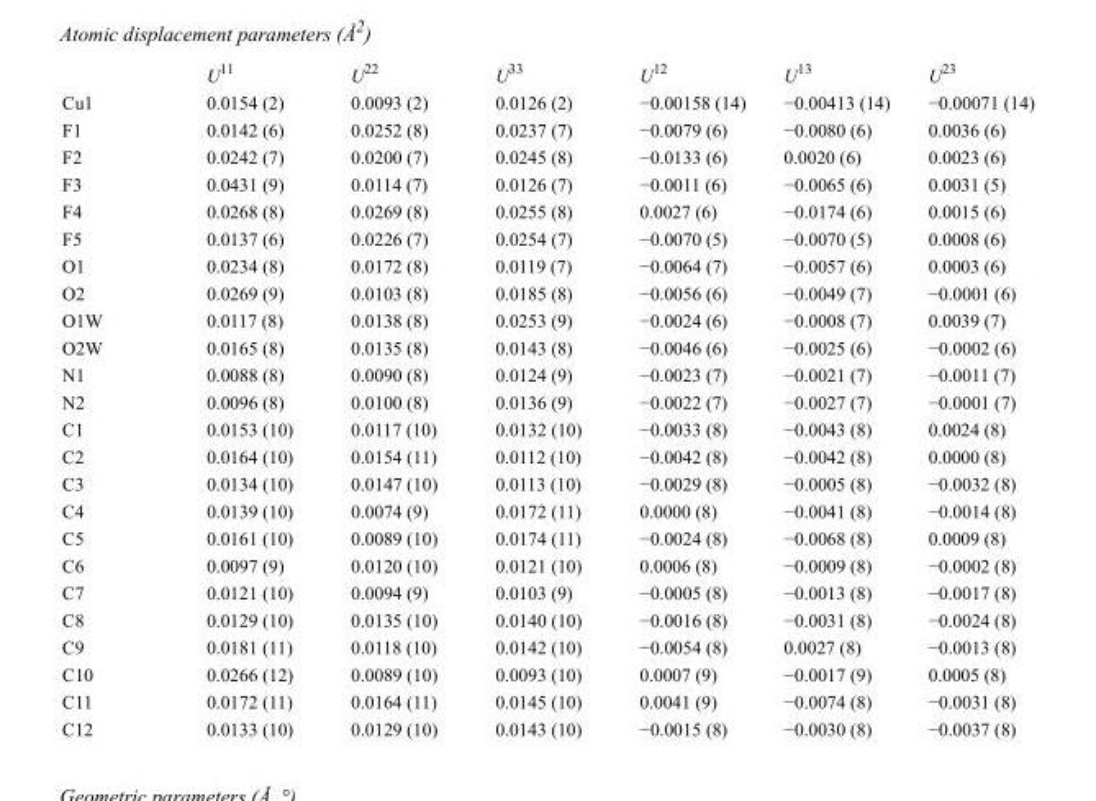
<table><thead><tr><td></td><td>U<sup>11</sup></td><td>U<sup>22</sup></td><td>U<sup>33</sup></td><td>U<sup>12</sup></td><td>U<sup>13</sup></td><td>U<sup>23</sup></td></tr></thead><tbody><tr><td>Cu1</td><td>0.0154 (2)</td><td>0.0093 (2)</td><td>0.0126 (2)</td><td>−0.00158 (14)</td><td>−0.00413 (14)</td><td>−0.00071 (14)</td></tr><tr><td>F1</td><td>0.0142 (6)</td><td>0.0252 (8)</td><td>0.0237 (7)</td><td>−0.0079 (6)</td><td>−0.0080 (6)</td><td>0.0036 (6)</td></tr><tr><td>F2</td><td>0.0242 (7)</td><td>0.0200 (7)</td><td>0.0245 (8)</td><td>−0.0133 (6)</td><td>0.0020 (6)</td><td>0.0023 (6)</td></tr><tr><td>F3</td><td>0.0431 (9)</td><td>0.0114 (7)</td><td>0.0126 (7)</td><td>−0.0011 (6)</td><td>−0.0065 (6)</td><td>0.0031 (5)</td></tr><tr><td>F4</td><td>0.0268 (8)</td><td>0.0269 (8)</td><td>0.0255 (8)</td><td>0.0027 (6)</td><td>−0.0174 (6)</td><td>0.0015 (6)</td></tr><tr><td>F5</td><td>0.0137 (6)</td><td>0.0226 (7)</td><td>0.0254 (7)</td><td>−0.0070 (5)</td><td>−0.0070 (5)</td><td>0.0008 (6)</td></tr><tr><td>O1</td><td>0.0234 (8)</td><td>0.0172 (8)</td><td>0.0119 (7)</td><td>−0.0064 (7)</td><td>−0.0057 (6)</td><td>0.0003 (6)</td></tr><tr><td>O2</td><td>0.0269 (9)</td><td>0.0103 (8)</td><td>0.0185 (8)</td><td>−0.0056 (6)</td><td>−0.0049 (7)</td><td>−0.0001 (6)</td></tr><tr><td>O1W</td><td>0.0117 (8)</td><td>0.0138 (8)</td><td>0.0253 (9)</td><td>−0.0024 (6)</td><td>−0.0008 (7)</td><td>0.0039 (7)</td></tr><tr><td>O2W</td><td>0.0165 (8)</td><td>0.0135 (8)</td><td>0.0143 (8)</td><td>−0.0046 (6)</td><td>−0.0025 (6)</td><td>−0.0002 (6)</td></tr><tr><td>N1</td><td>0.0088 (8)</td><td>0.0090 (8)</td><td>0.0124 (9)</td><td>−0.0023 (7)</td><td>−0.0021 (7)</td><td>−0.0011 (7)</td></tr><tr><td>N2</td><td>0.0096 (8)</td><td>0.0100 (8)</td><td>0.0136 (9)</td><td>−0.0022 (7)</td><td>−0.0027 (7)</td><td>−0.0001 (7)</td></tr><tr><td>C1</td><td>0.0153 (10)</td><td>0.0117 (10)</td><td>0.0132 (10)</td><td>−0.0033 (8)</td><td>−0.0043 (8)</td><td>0.0024 (8)</td></tr><tr><td>C2</td><td>0.0164 (10)</td><td>0.0154 (11)</td><td>0.0112 (10)</td><td>−0.0042 (8)</td><td>−0.0042 (8)</td><td>0.0000 (8)</td></tr><tr><td>C3</td><td>0.0134 (10)</td><td>0.0147 (10)</td><td>0.0113 (10)</td><td>−0.0029 (8)</td><td>−0.0005 (8)</td><td>−0.0032 (8)</td></tr><tr><td>C4</td><td>0.0139 (10)</td><td>0.0074 (9)</td><td>0.0172 (11)</td><td>0.0000 (8)</td><td>−0.0041 (8)</td><td>−0.0014 (8)</td></tr><tr><td>C5</td><td>0.0161 (10)</td><td>0.0089 (10)</td><td>0.0174 (11)</td><td>−0.0024 (8)</td><td>−0.0068 (8)</td><td>0.0009 (8)</td></tr><tr><td>C6</td><td>0.0097 (9)</td><td>0.0120 (10)</td><td>0.0121 (10)</td><td>0.0006 (8)</td><td>−0.0009 (8)</td><td>−0.0002 (8)</td></tr><tr><td>C7</td><td>0.0121 (10)</td><td>0.0094 (9)</td><td>0.0103 (9)</td><td>−0.0005 (8)</td><td>−0.0013 (8)</td><td>−0.0017 (8)</td></tr><tr><td>C8</td><td>0.0129 (10)</td><td>0.0135 (10)</td><td>0.0140 (10)</td><td>−0.0016 (8)</td><td>−0.0031 (8)</td><td>−0.0024 (8)</td></tr><tr><td>C9</td><td>0.0181 (11)</td><td>0.0118 (10)</td><td>0.0142 (10)</td><td>−0.0054 (8)</td><td>0.0027 (8)</td><td>−0.0013 (8)</td></tr><tr><td>C10</td><td>0.0266 (12)</td><td>0.0089 (10)</td><td>0.0093 (10)</td><td>0.0007 (9)</td><td>−0.0017 (9)</td><td>0.0005 (8)</td></tr><tr><td>C11</td><td>0.0172 (11)</td><td>0.0164 (11)</td><td>0.0145 (10)</td><td>0.0041 (9)</td><td>−0.0074 (8)</td><td>−0.0031 (8)</td></tr><tr><td>C12</td><td>0.0133 (10)</td><td>0.0129 (10)</td><td>0.0143 (10)</td><td>−0.0015 (8)</td><td>−0.0030 (8)</td><td>−0.0037 (8)</td></tr></tbody></table>